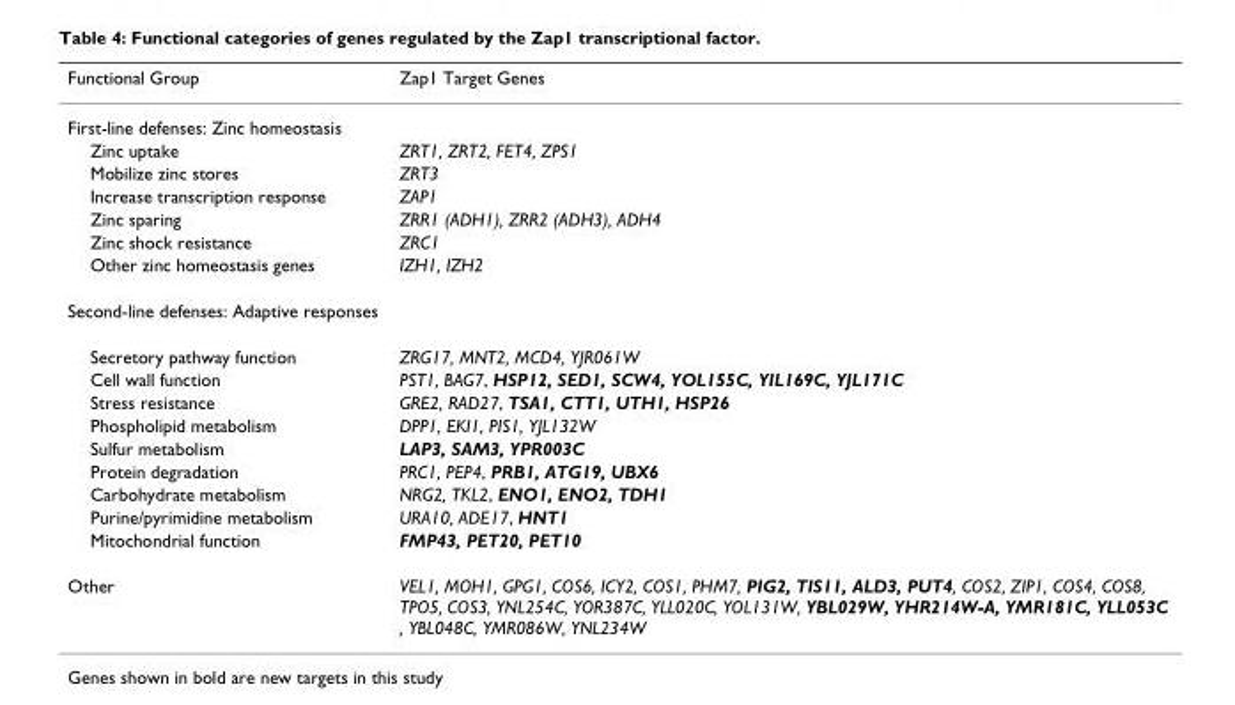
<table><thead><tr><td>Functional Group</td><td>Zap1 Target Genes</td></tr></thead><tbody><tr><td colspan="2">First-line defenses: Zinc homeostasis</td></tr><tr><td>Zinc uptake</td><td>ZRT1, ZRT2, FET4, ZPS1</td></tr><tr><td>Mobilize zinc stores</td><td>ZRT3</td></tr><tr><td>Increase transcription response</td><td>ZAP1</td></tr><tr><td>Zinc sparing</td><td>ZRR1 (ADH1), ZRR2 (ADH3), ADH4</td></tr><tr><td>Zinc shock resistance</td><td>ZRC1</td></tr><tr><td>Other zinc homeostasis genes</td><td>IZH1, IZH2</td></tr><tr><td colspan="2">Second-line defenses: Adaptive responses</td></tr><tr><td>Secretory pathway function</td><td>ZRG17, MNT2, MCD4, YJR061W</td></tr><tr><td>Cell wall function</td><td>PST1, BAG7, HSP12, SED1, SCW4, YOL155C, YIL169C, YJL171C</td></tr><tr><td>Stress resistance</td><td>GRE2, RAD27, TSA1, CTT1, UTH1, HSP26</td></tr><tr><td>Phospholipid metabolism</td><td>DPP1, EKI1, PIS1, YJL132W</td></tr><tr><td>Sulfur metabolism</td><td>LAP3, SAM3, YPR003C</td></tr><tr><td>Protein degradation</td><td>PRC1, PEP4, PRB1, ATG19, UBX6</td></tr><tr><td>Carbohydrate metabolism</td><td>NRG2, TKL2, ENO1, ENO2, TDH1</td></tr><tr><td>Purine/pyrimidine metabolism</td><td>URA10, ADE17, HNT1</td></tr><tr><td>Mitochondrial function</td><td>FMP43, PET20, PET10</td></tr><tr><td>Other</td><td>VEL1, MOH1, GPG1, COS6, ICY2, COS1, PHM7, PIG2, TIS11, ALD3, PUT4, COS2, ZIP1, COS4, COS8, TPO5, COS3, YNL254C, YOR387C, YLL020C, YOL131W, YBL029W, YHR214W-A, YMR181C, YLL053C , YBL048C, YMR086W, YNL234W</td></tr></tbody></table>